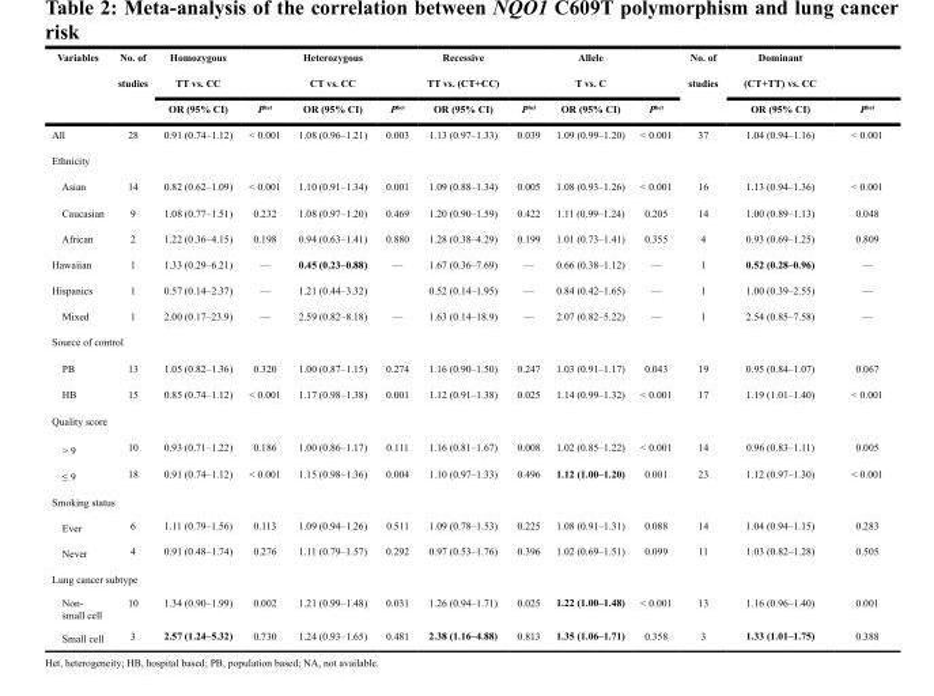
<table><thead><tr><td rowspan="3">Variables</td><td rowspan="3">No. of studies</td><td rowspan="3">Homozygous TT vs. CC OR (95% CI)</td><td rowspan="3">P<sup>het</sup></td><td rowspan="3">Heterozygous CT vs. CC OR (95% CI)</td><td rowspan="3">P<sup>het</sup></td><td rowspan="3">Recessive TT vs. (CT+CC) OR (95% CI)</td><td rowspan="3">P<sup>het</sup></td><td rowspan="3">Allele T vs. C OR (95% CI)</td><td rowspan="3">P<sup>het</sup></td><td rowspan="3">No. of studies</td><td rowspan="3">Dominant (CT+TT) vs. CC OR (95% CI)</td><td rowspan="3">P<sup>het</sup></td></tr><tr></tr><tr></tr></thead><tbody><tr><td>All</td><td>28</td><td>0.91 (0.74–1.12)</td><td>&lt; 0.001</td><td>1.08 (0.96–1.21)</td><td>0.003</td><td>1.13 (0.97–1.33)</td><td>0.039</td><td>1.09 (0.99–1.20)</td><td>&lt; 0.001</td><td>37</td><td>1.04 (0.94–1.16)</td><td>&lt; 0.001</td></tr><tr><td colspan="13">Ethnicity</td></tr><tr><td>Asian</td><td>14</td><td>0.82 (0.62–1.09)</td><td>&lt; 0.001</td><td>1.10 (0.91–1.34)</td><td>0.001</td><td>1.09 (0.88–1.34)</td><td>0.005</td><td>1.08 (0.93–1.26)</td><td>&lt; 0.001</td><td>16</td><td>1.13 (0.94–1.36)</td><td>&lt; 0.001</td></tr><tr><td>Caucasian</td><td>9</td><td>1.08 (0.77–1.51)</td><td>0.232</td><td>1.08 (0.97–1.20)</td><td>0.469</td><td>1.20 (0.90–1.59)</td><td>0.422</td><td>1.11 (0.99–1.24)</td><td>0.205</td><td>14</td><td>1.00 (0.89–1.13)</td><td>0.048</td></tr><tr><td>African</td><td>2</td><td>1.22 (0.36–4.15)</td><td>0.198</td><td>0.94 (0.63–1.41)</td><td>0.880</td><td>1.28 (0.38–4.29)</td><td>0.199</td><td>1.01 (0.73–1.41)</td><td>0.355</td><td>4</td><td>0.93 (0.69–1.25)</td><td>0.809</td></tr><tr><td>Hawaiian</td><td>1</td><td>1.33 (0.29–6.21)</td><td>—</td><td>0.45 (0.23–0.88)</td><td>—</td><td>1.67 (0.36–7.69)</td><td>—</td><td>0.66 (0.38–1.12)</td><td>—</td><td>1</td><td>0.52 (0.28–0.96)</td><td>—</td></tr><tr><td>Hispanics</td><td>1</td><td>0.57 (0.14–2.37)</td><td>—</td><td>1.21 (0.44–3.32)</td><td></td><td>0.52 (0.14–1.95)</td><td>—</td><td>0.84 (0.42–1.65)</td><td>—</td><td>1</td><td>1.00 (0.39–2.55)</td><td>—</td></tr><tr><td>Mixed</td><td>1</td><td>2.00 (0.17–23.9)</td><td>—</td><td>2.59 (0.82–8.18)</td><td>—</td><td>1.63 (0.14–18.9)</td><td>—</td><td>2.07 (0.82–5.22)</td><td>—</td><td>1</td><td>2.54 (0.85–7.58)</td><td>—</td></tr><tr><td colspan="13">Source of control</td></tr><tr><td>PB</td><td>13</td><td>1.05 (0.82–1.36)</td><td>0.320</td><td>1.00 (0.87–1.15)</td><td>0.274</td><td>1.16 (0.90–1.50)</td><td>0.247</td><td>1.03 (0.91–1.17)</td><td>0.043</td><td>19</td><td>0.95 (0.84–1.07)</td><td>0.067</td></tr><tr><td>HB</td><td>15</td><td>0.85 (0.74–1.12)</td><td>&lt; 0.001</td><td>1.17 (0.98–1.38)</td><td>0.001</td><td>1.12 (0.91–1.38)</td><td>0.025</td><td>1.14 (0.99–1.32)</td><td>&lt; 0.001</td><td>17</td><td>1.19 (1.01–1.40)</td><td>&lt; 0.001</td></tr><tr><td colspan="13">Quality score</td></tr><tr><td>&gt; 9</td><td>10</td><td>0.93 (0.71–1.22)</td><td>0.186</td><td>1.00 (0.86–1.17)</td><td>0.111</td><td>1.16 (0.81–1.67)</td><td>0.008</td><td>1.02 (0.85–1.22)</td><td>&lt; 0.001</td><td>14</td><td>0.96 (0.83–1.11)</td><td>0.005</td></tr><tr><td>≤ 9</td><td>18</td><td>0.91 (0.74–1.12)</td><td>&lt; 0.001</td><td>1.15 (0.98–1.36)</td><td>0.004</td><td>1.10 (0.97–1.33)</td><td>0.496</td><td>1.12 (1.00–1.20)</td><td>0.001</td><td>23</td><td>1.12 (0.97–1.30)</td><td>&lt; 0.001</td></tr><tr><td colspan="13">Smoking status</td></tr><tr><td>Ever</td><td>6</td><td>1.11 (0.79–1.56)</td><td>0.113</td><td>1.09 (0.94–1.26)</td><td>0.511</td><td>1.09 (0.78–1.53)</td><td>0.225</td><td>1.08 (0.91–1.31)</td><td>0.088</td><td>14</td><td>1.04 (0.94–1.15)</td><td>0.283</td></tr><tr><td>Never</td><td>4</td><td>0.91 (0.48–1.74)</td><td>0.276</td><td>1.11 (0.79–1.57)</td><td>0.292</td><td>0.97 (0.53–1.76)</td><td>0.396</td><td>1.02 (0.69–1.51)</td><td>0.099</td><td>11</td><td>1.03 (0.82–1.28)</td><td>0.505</td></tr><tr><td colspan="13">Lung cancer subtype</td></tr><tr><td>Non- small cell</td><td>10</td><td>1.34 (0.90–1.99)</td><td>0.002</td><td>1.21 (0.99–1.48)</td><td>0.031</td><td>1.26 (0.94–1.71)</td><td>0.025</td><td>1.22 (1.00–1.48)</td><td>&lt; 0.001</td><td>13</td><td>1.16 (0.96–1.40)</td><td>0.001</td></tr><tr><td>Small cell</td><td>3</td><td>2.57 (1.24–5.32)</td><td>0.730</td><td>1.24 (0.93–1.65)</td><td>0.481</td><td>2.38 (1.16–4.88)</td><td>0.813</td><td>1.35 (1.06–1.71)</td><td>0.358</td><td>3</td><td>1.33 (1.01–1.75)</td><td>0.388</td></tr></tbody></table>